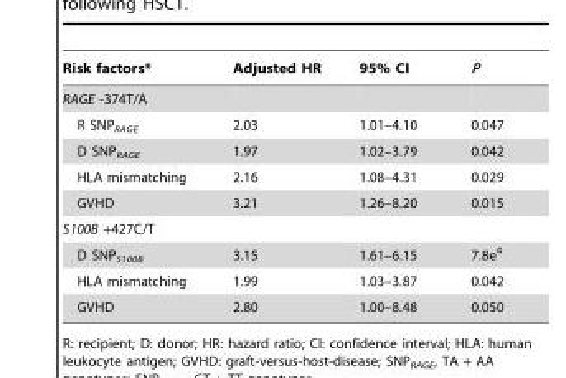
<table><thead><tr><td>Risk factors*</td><td>Adjusted HR</td><td>95% CI</td><td>P</td></tr></thead><tbody><tr><td colspan="4">RAGE -374T/A</td></tr><tr><td>R SNP<sub>RAGE</sub></td><td>2.03</td><td>1.01–4.10</td><td>0.047</td></tr><tr><td>D SNP<sub>RAGE</sub></td><td>1.97</td><td>1.02–3.79</td><td>0.042</td></tr><tr><td>HLA mismatching</td><td>2.16</td><td>1.08–4.31</td><td>0.029</td></tr><tr><td>GVHD</td><td>3.21</td><td>1.26–8.20</td><td>0.015</td></tr><tr><td colspan="4">S100B +427C/T</td></tr><tr><td>D SNP<sub>S100B</sub></td><td>3.15</td><td>1.61–6.15</td><td>7.8e<sup>4</sup></td></tr><tr><td>HLA mismatching</td><td>1.99</td><td>1.03–3.87</td><td>0.042</td></tr><tr><td>GVHD</td><td>2.80</td><td>1.00–8.48</td><td>0.050</td></tr></tbody></table>